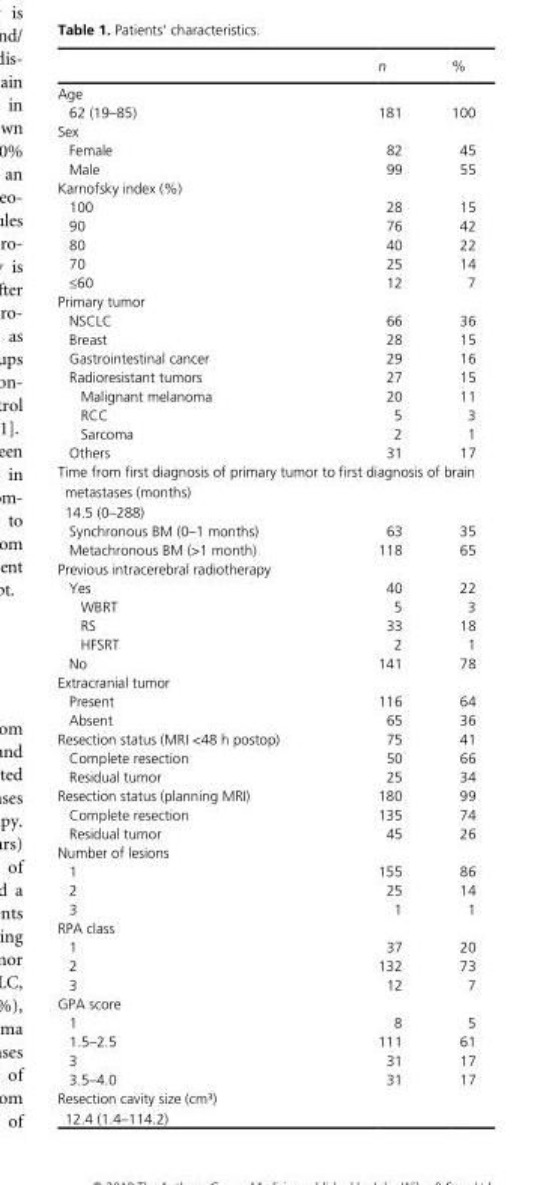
<table><thead><tr><td></td><td>n</td><td>%</td></tr></thead><tbody><tr><td colspan="3">Age</td></tr><tr><td>62 (19–85)</td><td>181</td><td>100</td></tr><tr><td colspan="3">Sex</td></tr><tr><td>Female</td><td>82</td><td>45</td></tr><tr><td>Male</td><td>99</td><td>55</td></tr><tr><td colspan="3">Karnofsky index (%)</td></tr><tr><td>100</td><td>28</td><td>15</td></tr><tr><td>90</td><td>76</td><td>42</td></tr><tr><td>80</td><td>40</td><td>22</td></tr><tr><td>70</td><td>25</td><td>14</td></tr><tr><td>≤60</td><td>12</td><td>7</td></tr><tr><td colspan="3">Primary tumor</td></tr><tr><td>NSCLC</td><td>66</td><td>36</td></tr><tr><td>Breast</td><td>28</td><td>15</td></tr><tr><td>Gastrointestinal cancer</td><td>29</td><td>16</td></tr><tr><td>Radioresistant tumors</td><td>27</td><td>15</td></tr><tr><td>Malignant melanoma</td><td>20</td><td>11</td></tr><tr><td>RCC</td><td>5</td><td>3</td></tr><tr><td>Sarcoma</td><td>2</td><td>1</td></tr><tr><td>Others</td><td>31</td><td>17</td></tr><tr><td colspan="3">Time from first diagnosis of primary tumor to first diagnosis of brain metastases (months) 14.5 (0–288)</td></tr><tr><td>Synchronous BM (0–1 months)</td><td>63</td><td>35</td></tr><tr><td>Metachronous BM (&gt;1 month)</td><td>118</td><td>65</td></tr><tr><td colspan="3">Previous intracerebral radiotherapy</td></tr><tr><td>Yes</td><td>40</td><td>22</td></tr><tr><td>WBRT</td><td>5</td><td>3</td></tr><tr><td>RS</td><td>33</td><td>18</td></tr><tr><td>HFSRT</td><td>2</td><td>1</td></tr><tr><td>No</td><td>141</td><td>78</td></tr><tr><td colspan="3">Extracranial tumor</td></tr><tr><td>Present</td><td>116</td><td>64</td></tr><tr><td>Absent</td><td>65</td><td>36</td></tr><tr><td>Resection status (MRI &lt;48 h postop)</td><td>75</td><td>41</td></tr><tr><td>Complete resection</td><td>50</td><td>66</td></tr><tr><td>Residual tumor</td><td>25</td><td>34</td></tr><tr><td>Resection status (planning MRI)</td><td>180</td><td>99</td></tr><tr><td>Complete resection</td><td>135</td><td>74</td></tr><tr><td>Residual tumor</td><td>45</td><td>26</td></tr><tr><td colspan="3">Number of lesions</td></tr><tr><td>1</td><td>155</td><td>86</td></tr><tr><td>2</td><td>25</td><td>14</td></tr><tr><td>3</td><td>1</td><td>1</td></tr><tr><td colspan="3">RPA class</td></tr><tr><td>1</td><td>37</td><td>20</td></tr><tr><td>2</td><td>132</td><td>73</td></tr><tr><td>3</td><td>12</td><td>7</td></tr><tr><td colspan="3">GPA score</td></tr><tr><td>1</td><td>8</td><td>5</td></tr><tr><td>1.5–2.5</td><td>111</td><td>61</td></tr><tr><td>3</td><td>31</td><td>17</td></tr><tr><td>3.5–4.0</td><td>31</td><td>17</td></tr><tr><td>Resection cavity size (cm³) 12.4 (1.4–114.2)</td><td></td><td></td></tr></tbody></table>